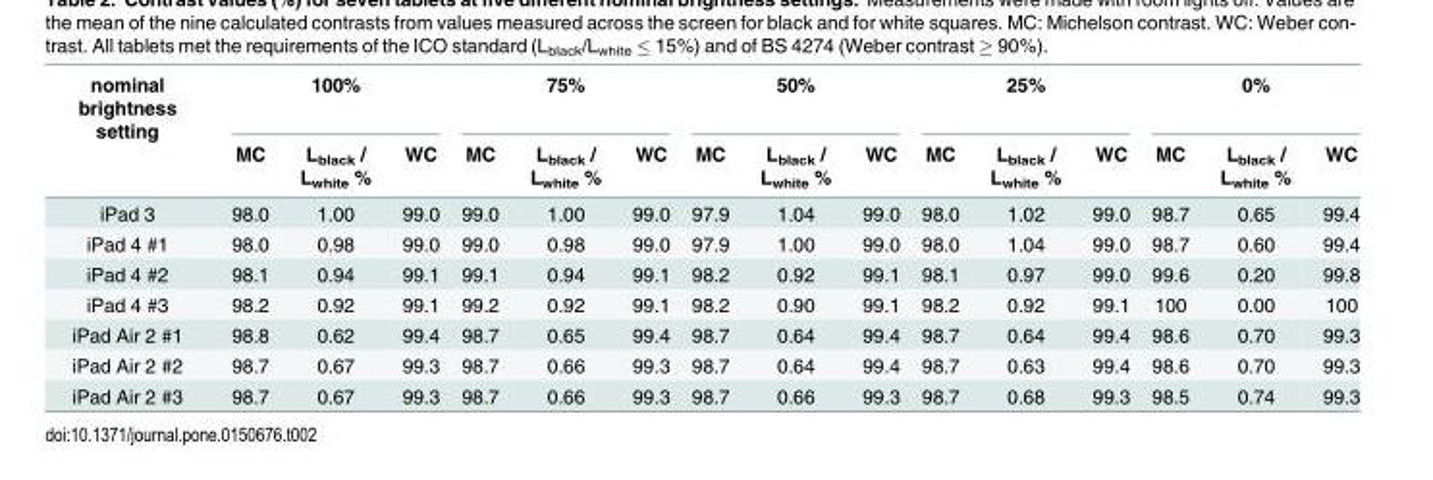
<table><thead><tr><td rowspan="2">nominal brightness setting</td><td colspan="3">100%</td><td colspan="3">75%</td><td colspan="3">50%</td><td colspan="3">25%</td><td colspan="3">0%</td></tr><tr><td>MC</td><td>L<sub>black</sub> / L<sub>white</sub> %</td><td>WC</td><td>MC</td><td>L<sub>black</sub> / L<sub>white</sub> %</td><td>WC</td><td>MC</td><td>L<sub>black</sub> / L<sub>white</sub> %</td><td>WC</td><td>MC</td><td>L<sub>black</sub> / L<sub>white</sub> %</td><td>WC</td><td>MC</td><td>L<sub>black</sub> / L<sub>white</sub> %</td><td>WC</td></tr></thead><tbody><tr><td>iPad 3</td><td>98.0</td><td>1.00</td><td>99.0</td><td>99.0</td><td>1.00</td><td>99.0</td><td>97.9</td><td>1.04</td><td>99.0</td><td>98.0</td><td>1.02</td><td>99.0</td><td>98.7</td><td>0.65</td><td>99.4</td></tr><tr><td>iPad 4 #1</td><td>98.0</td><td>0.98</td><td>99.0</td><td>99.0</td><td>0.98</td><td>99.0</td><td>97.9</td><td>1.00</td><td>99.0</td><td>98.0</td><td>1.04</td><td>99.0</td><td>98.7</td><td>0.60</td><td>99.4</td></tr><tr><td>iPad 4 #2</td><td>98.1</td><td>0.94</td><td>99.1</td><td>99.1</td><td>0.94</td><td>99.1</td><td>98.2</td><td>0.92</td><td>99.1</td><td>98.1</td><td>0.97</td><td>99.0</td><td>99.6</td><td>0.20</td><td>99.8</td></tr><tr><td>iPad 4 #3</td><td>98.2</td><td>0.92</td><td>99.1</td><td>99.2</td><td>0.92</td><td>99.1</td><td>98.2</td><td>0.90</td><td>99.1</td><td>98.2</td><td>0.92</td><td>99.1</td><td>100</td><td>0.00</td><td>100</td></tr><tr><td>iPad Air 2 #1</td><td>98.8</td><td>0.62</td><td>99.4</td><td>98.7</td><td>0.65</td><td>99.4</td><td>98.7</td><td>0.64</td><td>99.4</td><td>98.7</td><td>0.64</td><td>99.4</td><td>98.6</td><td>0.70</td><td>99.3</td></tr><tr><td>iPad Air 2 #2</td><td>98.7</td><td>0.67</td><td>99.3</td><td>98.7</td><td>0.66</td><td>99.3</td><td>98.7</td><td>0.64</td><td>99.4</td><td>98.7</td><td>0.63</td><td>99.4</td><td>98.6</td><td>0.70</td><td>99.3</td></tr><tr><td>iPad Air 2 #3</td><td>98.7</td><td>0.67</td><td>99.3</td><td>98.7</td><td>0.66</td><td>99.3</td><td>98.7</td><td>0.66</td><td>99.3</td><td>98.7</td><td>0.68</td><td>99.3</td><td>98.5</td><td>0.74</td><td>99.3</td></tr></tbody></table>